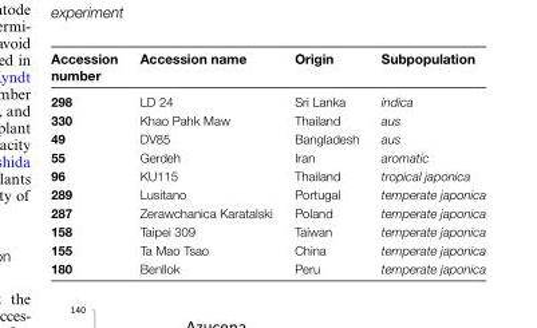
<table><thead><tr><td>Accession number</td><td>Accession name</td><td>Origin</td><td>Subpopulation</td></tr></thead><tbody><tr><td>298</td><td>LD 24</td><td>Sri Lanka</td><td>indica</td></tr><tr><td>330</td><td>Khao Pahk Maw</td><td>Thailand</td><td>aus</td></tr><tr><td>49</td><td>DV85</td><td>Bangladesh</td><td>aus</td></tr><tr><td>55</td><td>Gerdeh</td><td>Iran</td><td>aromatic</td></tr><tr><td>96</td><td>KU115</td><td>Thailand</td><td>tropical japonica</td></tr><tr><td>289</td><td>Lusitano</td><td>Portugal</td><td>temperate japonica</td></tr><tr><td>287</td><td>Zerawchanica Karatalski</td><td>Poland</td><td>temperate japonica</td></tr><tr><td>158</td><td>Taipei 309</td><td>Taiwan</td><td>temperate japonica</td></tr><tr><td>155</td><td>Ta Mao Tsao</td><td>China</td><td>temperate japonica</td></tr><tr><td>180</td><td>Benllok</td><td>Peru</td><td>temperate japonica</td></tr></tbody></table>